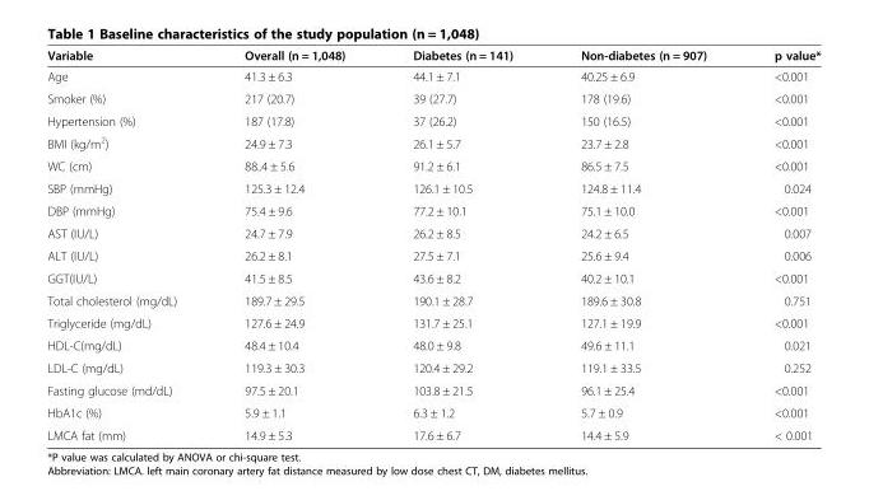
<table><thead><tr><td>Variable</td><td>Overall (n = 1,048)</td><td>Diabetes (n = 141)</td><td>Non-diabetes (n = 907)</td><td>p value*</td></tr></thead><tbody><tr><td>Age</td><td>41.3 ± 6.3</td><td>44.1 ± 7.1</td><td>40.25 ± 6.9</td><td>&lt;0.001</td></tr><tr><td>Smoker (%)</td><td>217 (20.7)</td><td>39 (27.7)</td><td>178 (19.6)</td><td>&lt;0.001</td></tr><tr><td>Hypertension (%)</td><td>187 (17.8)</td><td>37 (26.2)</td><td>150 (16.5)</td><td>&lt;0.001</td></tr><tr><td>BMI (kg/m<sup>2</sup>)</td><td>24.9 ± 7.3</td><td>26.1 ± 5.7</td><td>23.7 ± 2.8</td><td>&lt;0.001</td></tr><tr><td>WC (cm)</td><td>88..4 ± 5.6</td><td>91.2 ± 6.1</td><td>86.5 ± 7.5</td><td>&lt;0.001</td></tr><tr><td>SBP (mmHg)</td><td>125.3 ± 12.4</td><td>126.1 ± 10.5</td><td>124.8 ± 11.4</td><td>0.024</td></tr><tr><td>DBP (mmHg)</td><td>75.4 ± 9.6</td><td>77.2 ± 10.1</td><td>75.1 ± 10.0</td><td>&lt;0.001</td></tr><tr><td>AST (IU/L)</td><td>24.7 ± 7.9</td><td>26.2 ± 8.5</td><td>24.2 ± 6.5</td><td>0.007</td></tr><tr><td>ALT (IU/L)</td><td>26.2 ± 8.1</td><td>27.5 ± 7.1</td><td>25.6 ± 9.4</td><td>0.006</td></tr><tr><td>GGT(IU/L)</td><td>41.5 ± 8.5</td><td>43.6 ± 8.2</td><td>40.2 ± 10.1</td><td>&lt;0.001</td></tr><tr><td>Total cholesterol (mg/dL)</td><td>189.7 ± 29.5</td><td>190.1 ± 28.7</td><td>189.6 ± 30.8</td><td>0.751</td></tr><tr><td>Triglyceride (mg/dL)</td><td>127.6 ± 24.9</td><td>131.7 ± 25.1</td><td>127.1 ± 19.9</td><td>&lt;0.001</td></tr><tr><td>HDL-C(mg/dL)</td><td>48.4 ± 10.4</td><td>48.0 ± 9.8</td><td>49.6 ± 11.1</td><td>0.021</td></tr><tr><td>LDL-C (mg/dL)</td><td>119.3 ± 30.3</td><td>120.4 ± 29.2</td><td>119.1 ± 33.5</td><td>0.252</td></tr><tr><td>Fasting glucose (md/dL)</td><td>97.5 ± 20.1</td><td>103.8 ± 21.5</td><td>96.1 ± 25.4</td><td>&lt;0.001</td></tr><tr><td>HbA1c (%)</td><td>5.9 ± 1.1</td><td>6.3 ± 1.2</td><td>5.7 ± 0.9</td><td>&lt;0.001</td></tr><tr><td>LMCA fat (mm)</td><td>14.9 ± 5.3</td><td>17.6 ± 6.7</td><td>14.4 ± 5.9</td><td>&lt; 0.001</td></tr></tbody></table>